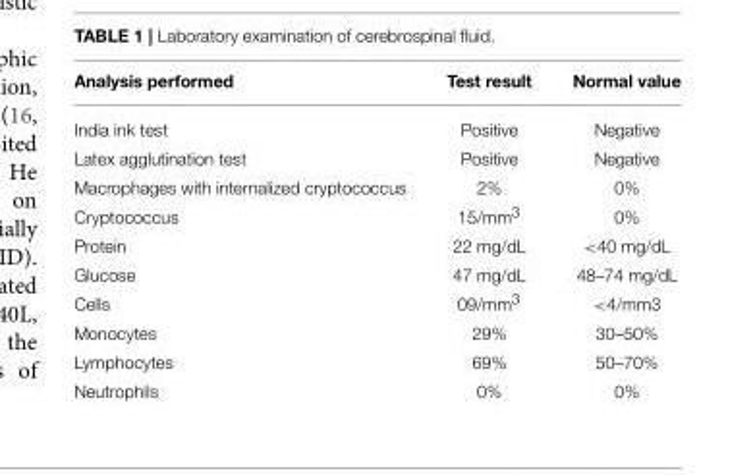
<table><thead><tr><td>Analysis performed</td><td>Test result</td><td>Normal value</td></tr></thead><tbody><tr><td>India ink test</td><td>Positive</td><td>Negative</td></tr><tr><td>Latex agglutination test</td><td>Positive</td><td>Negative</td></tr><tr><td>Macrophages with internalized cryptococcus</td><td>2%</td><td>0%</td></tr><tr><td>Cryptococcus</td><td>15/mm<sup>3</sup></td><td>0%</td></tr><tr><td>Protein</td><td>22 mg/dL</td><td>&lt;40 mg/dL</td></tr><tr><td>Glucose</td><td>47 mg/dL</td><td>48–74 mg/dL</td></tr><tr><td>Cells</td><td>09/mm<sup>3</sup></td><td>&lt;4/mm3</td></tr><tr><td>Monocytes</td><td>29%</td><td>30–50%</td></tr><tr><td>Lymphocytes</td><td>69%</td><td>50–70%</td></tr><tr><td>Neutrophils</td><td>0%</td><td>0%</td></tr></tbody></table>